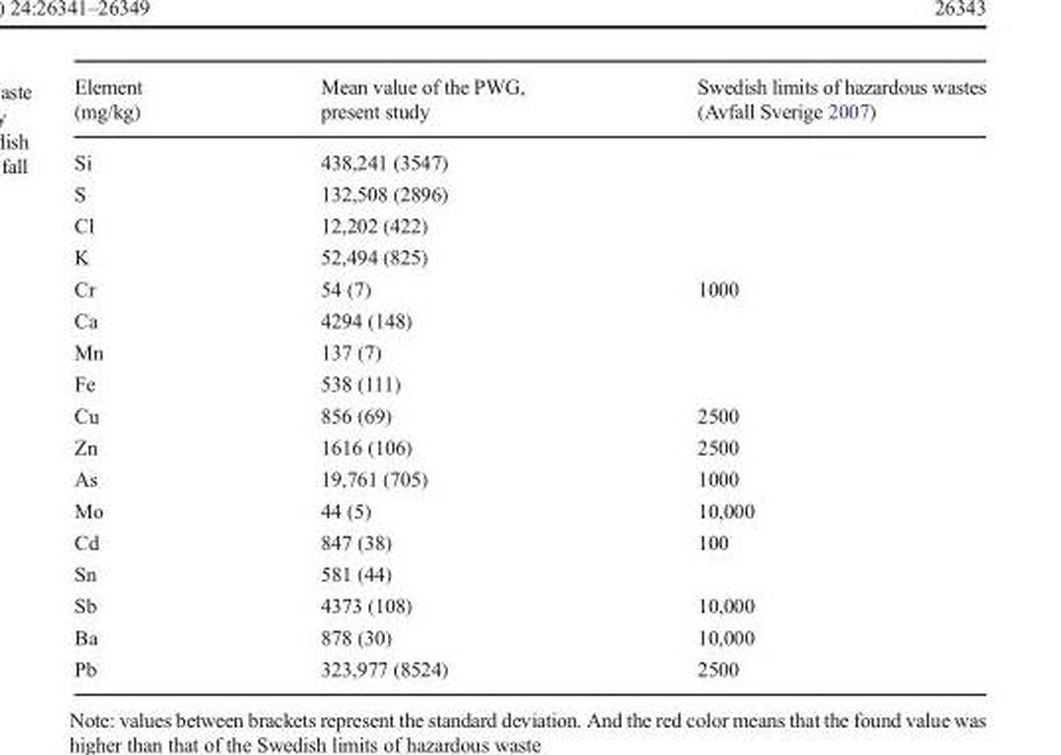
<table><thead><tr><td>Element (mg/kg)</td><td>Mean value of the PWG, present study</td><td>Swedish limits of hazardous wastes (Avfall Sverige 2007)</td></tr></thead><tbody><tr><td>Si</td><td>438,241 (3547)</td><td></td></tr><tr><td>S</td><td>132,508 (2896)</td><td></td></tr><tr><td>Cl</td><td>12,202 (422)</td><td></td></tr><tr><td>K</td><td>52,494 (825)</td><td></td></tr><tr><td>Cr</td><td>54 (7)</td><td>1000</td></tr><tr><td>Ca</td><td>4294 (148)</td><td></td></tr><tr><td>Mn</td><td>137 (7)</td><td></td></tr><tr><td>Fe</td><td>538 (111)</td><td></td></tr><tr><td>Cu</td><td>856 (69)</td><td>2500</td></tr><tr><td>Zn</td><td>1616 (106)</td><td>2500</td></tr><tr><td>As</td><td>19,761 (705)</td><td>1000</td></tr><tr><td>Mo</td><td>44 (5)</td><td>10,000</td></tr><tr><td>Cd</td><td>847 (38)</td><td>100</td></tr><tr><td>Sn</td><td>581 (44)</td><td></td></tr><tr><td>Sb</td><td>4373 (108)</td><td>10,000</td></tr><tr><td>Ba</td><td>878 (30)</td><td>10,000</td></tr><tr><td>Pb</td><td>323,977 (8524)</td><td>2500</td></tr></tbody></table>